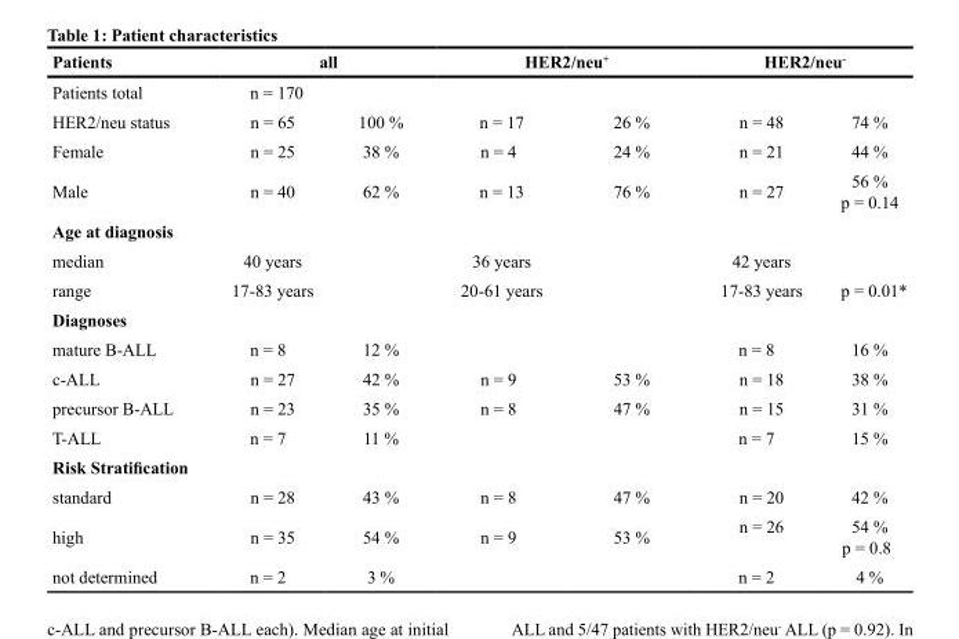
<table><thead><tr><td rowspan="2">Patients Patients total</td><td colspan="2">all</td><td colspan="2">HER2/neu<sup>+</sup></td><td colspan="2">HER2/neu<sup>-</sup></td></tr><tr><td>n = 170</td><td></td><td></td><td></td><td></td><td></td></tr></thead><tbody><tr><td>HER2/neu status</td><td>n = 65</td><td>100 %</td><td>n = 17</td><td>26 %</td><td>n = 48</td><td>74 %</td></tr><tr><td>Female</td><td>n = 25</td><td>38 %</td><td>n = 4</td><td>24 %</td><td>n = 21</td><td>44 %</td></tr><tr><td>Male</td><td>n = 40</td><td>62 %</td><td>n = 13</td><td>76 %</td><td>n = 27</td><td>56 % p = 0.14</td></tr><tr><td colspan="7">Age at diagnosis</td></tr><tr><td>median</td><td>40 years</td><td></td><td>36 years</td><td></td><td>42 years</td><td></td></tr><tr><td>range</td><td>17-83 years</td><td></td><td>20-61 years</td><td></td><td>17-83 years</td><td>p = 0.01*</td></tr><tr><td colspan="7">Diagnoses</td></tr><tr><td>mature B-ALL</td><td>n = 8</td><td>12 %</td><td></td><td></td><td>n = 8</td><td>16 %</td></tr><tr><td>c-ALL</td><td>n = 27</td><td>42 %</td><td>n = 9</td><td>53 %</td><td>n = 18</td><td>38 %</td></tr><tr><td>precursor B-ALL</td><td>n = 23</td><td>35 %</td><td>n = 8</td><td>47 %</td><td>n = 15</td><td>31 %</td></tr><tr><td>T-ALL</td><td>n = 7</td><td>11 %</td><td></td><td></td><td>n = 7</td><td>15 %</td></tr><tr><td colspan="7">Risk Stratification</td></tr><tr><td>standard</td><td>n = 28</td><td>43 %</td><td>n = 8</td><td>47 %</td><td>n = 20</td><td>42 %</td></tr><tr><td>high</td><td>n = 35</td><td>54 %</td><td>n = 9</td><td>53 %</td><td>n = 26</td><td>54 % p = 0.8</td></tr><tr><td>not determined</td><td>n = 2</td><td>3 %</td><td></td><td></td><td>n = 2</td><td>4 %</td></tr></tbody></table>